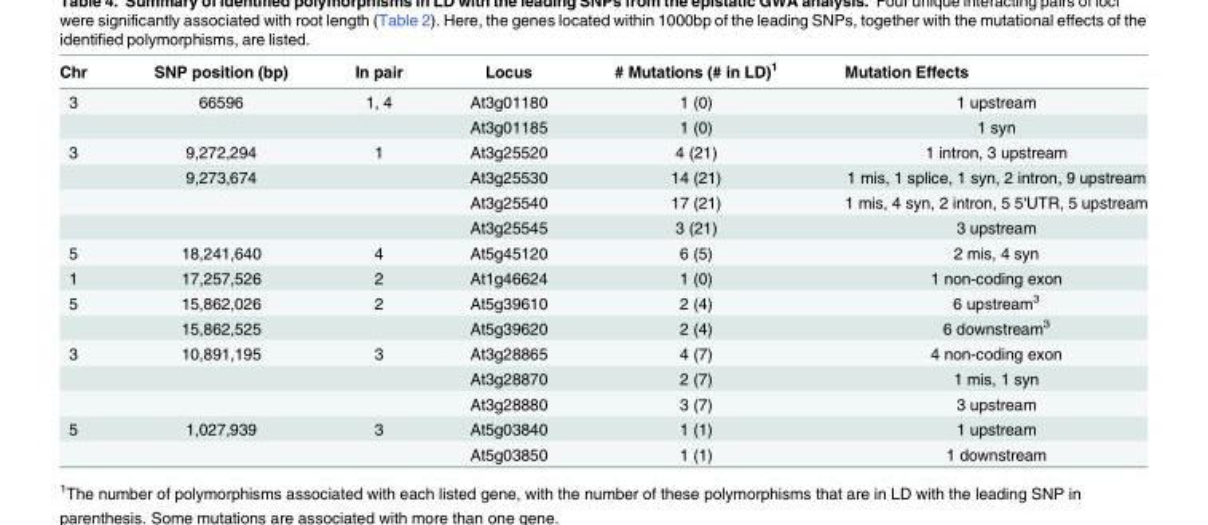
<table><thead><tr><td>Chr</td><td>SNP position (bp)</td><td>In pair</td><td>Locus</td><td># Mutations (# in LD)<sup>1</sup></td><td>Mutation Effects</td></tr></thead><tbody><tr><td rowspan="2">3</td><td>66596</td><td>1, 4</td><td>At3g01180</td><td>1 (0)</td><td>1 upstream</td></tr><tr><td></td><td></td><td>At3g01185</td><td>1 (0)</td><td>1 syn</td></tr><tr><td rowspan="4">3</td><td>9,272,294</td><td>1</td><td>At3g25520</td><td>4 (21)</td><td>1 intron, 3 upstream</td></tr><tr><td>9,273,674</td><td></td><td>At3g25530</td><td>14 (21)</td><td>1 mis, 1 splice, 1 syn, 2 intron, 9 upstream</td></tr><tr><td></td><td></td><td>At3g25540</td><td>17 (21)</td><td>1 mis, 4 syn, 2 intron, 5 5&#x27;UTR, 5 upstream</td></tr><tr><td></td><td></td><td>At3g25545</td><td>3 (21)</td><td>3 upstream</td></tr><tr><td>5</td><td>18,241,640</td><td>4</td><td>At5g45120</td><td>6 (5)</td><td>2 mis, 4 syn</td></tr><tr><td>1</td><td>17,257,526</td><td>2</td><td>At1g46624</td><td>1 (0)</td><td>1 non-coding exon</td></tr><tr><td rowspan="2">5</td><td>15,862,026</td><td>2</td><td>At5g39610</td><td>2 (4)</td><td>6 upstream<sup>3</sup></td></tr><tr><td>15,862,525</td><td></td><td>At5g39620</td><td>2 (4)</td><td>6 downstream<sup>3</sup></td></tr><tr><td rowspan="3">3</td><td>10,891,195</td><td>3</td><td>At3g28865</td><td>4 (7)</td><td>4 non-coding exon</td></tr><tr><td></td><td></td><td>At3g28870</td><td>2 (7)</td><td>1 mis, 1 syn</td></tr><tr><td></td><td></td><td>At3g28880</td><td>3 (7)</td><td>3 upstream</td></tr><tr><td rowspan="2">5</td><td>1,027,939</td><td>3</td><td>At5g03840</td><td>1 (1)</td><td>1 upstream</td></tr><tr><td></td><td></td><td>At5g03850</td><td>1 (1)</td><td>1 downstream</td></tr></tbody></table>